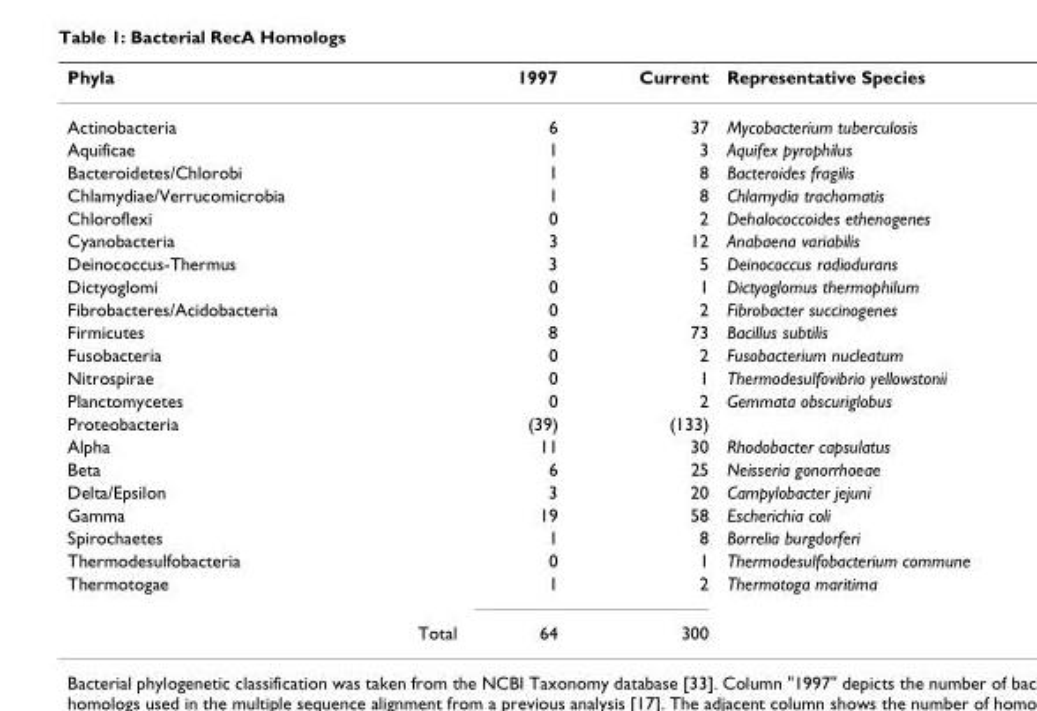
<table><thead><tr><td>Phyla</td><td>1997</td><td>Current</td><td>Representative Species</td></tr></thead><tbody><tr><td>Actinobacteria</td><td>6</td><td>37</td><td>Mycobacterium tuberculosis</td></tr><tr><td>Aquificae</td><td>1</td><td>3</td><td>Aquifex pyrophilus</td></tr><tr><td>Bacteroidetes/Chlorobi</td><td>1</td><td>8</td><td>Bacteroides fragilis</td></tr><tr><td>Chlamydiae/Verrucomicrobia</td><td>1</td><td>8</td><td>Chlamydia trachomatis</td></tr><tr><td>Chloroflexi</td><td>0</td><td>2</td><td>Dehalococcoides ethenogenes</td></tr><tr><td>Cyanobacteria</td><td>3</td><td>12</td><td>Anabaena variabilis</td></tr><tr><td>Deinococcus-Thermus</td><td>3</td><td>5</td><td>Deinococcus radiodurans</td></tr><tr><td>Dictyoglomi</td><td>0</td><td>1</td><td>Dictyoglomus thermophilum</td></tr><tr><td>Fibrobacteres/Acidobacteria</td><td>0</td><td>2</td><td>Fibrobacter succinogenes</td></tr><tr><td>Firmicutes</td><td>8</td><td>73</td><td>Bacillus subtilis</td></tr><tr><td>Fusobacteria</td><td>0</td><td>2</td><td>Fusobacterium nucleatum</td></tr><tr><td>Nitrospirae</td><td>0</td><td>1</td><td>Thermodesulfovibrio yellowstonii</td></tr><tr><td>Planctomycetes</td><td>0</td><td>2</td><td>Gemmata obscuriglobus</td></tr><tr><td>Proteobacteria</td><td>(39)</td><td>(133)</td><td></td></tr><tr><td>Alpha</td><td>11</td><td>30</td><td>Rhodobacter capsulatus</td></tr><tr><td>Beta</td><td>6</td><td>25</td><td>Neisseria gonorrhoeae</td></tr><tr><td>Delta/Epsilon</td><td>3</td><td>20</td><td>Campylobacter jejuni</td></tr><tr><td>Gamma</td><td>19</td><td>58</td><td>Escherichia coli</td></tr><tr><td>Spirochaetes</td><td>1</td><td>8</td><td>Borrelia burgdorferi</td></tr><tr><td>Thermodesulfobacteria</td><td>0</td><td>1</td><td>Thermodesulfobacterium commune</td></tr><tr><td>Thermotogae</td><td>1</td><td>2</td><td>Thermotoga maritima</td></tr><tr><td>Total</td><td>64</td><td>300</td><td></td></tr></tbody></table>